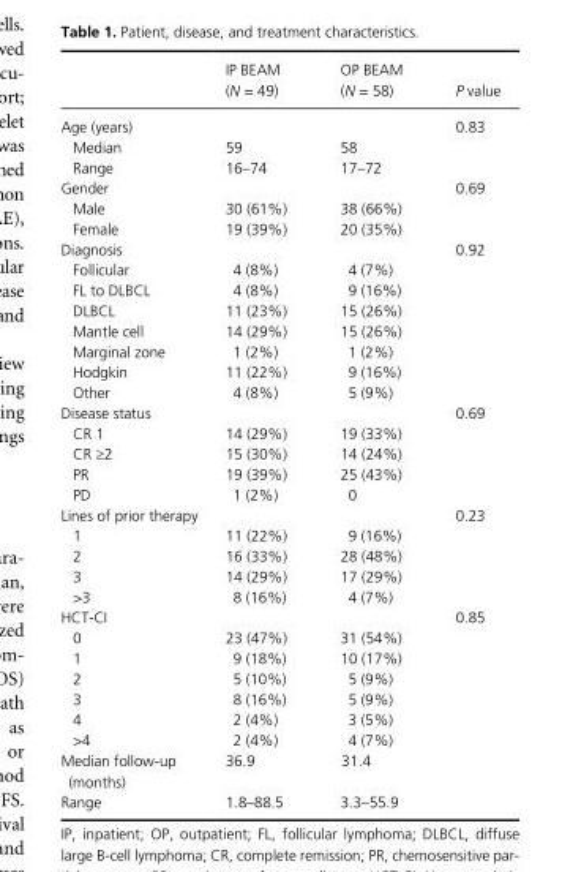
<table><thead><tr><td></td><td>IP BEAM (N = 49)</td><td>OP BEAM (N = 58)</td><td>P value</td></tr></thead><tbody><tr><td>Age (years)</td><td></td><td></td><td>0.83</td></tr><tr><td>Median</td><td>59</td><td>58</td><td></td></tr><tr><td>Range</td><td>16–74</td><td>17–72</td><td></td></tr><tr><td>Gender</td><td></td><td></td><td>0.69</td></tr><tr><td>Male</td><td>30 (61%)</td><td>38 (66%)</td><td></td></tr><tr><td>Female</td><td>19 (39%)</td><td>20 (35%)</td><td></td></tr><tr><td>Diagnosis</td><td></td><td></td><td>0.92</td></tr><tr><td>Follicular</td><td>4 (8%)</td><td>4 (7%)</td><td></td></tr><tr><td>FL to DLBCL</td><td>4 (8%)</td><td>9 (16%)</td><td></td></tr><tr><td>DLBCL</td><td>11 (23%)</td><td>15 (26%)</td><td></td></tr><tr><td>Mantle cell</td><td>14 (29%)</td><td>15 (26%)</td><td></td></tr><tr><td>Marginal zone</td><td>1 (2%)</td><td>1 (2%)</td><td></td></tr><tr><td>Hodgkin</td><td>11 (22%)</td><td>9 (16%)</td><td></td></tr><tr><td>Other</td><td>4 (8%)</td><td>5 (9%)</td><td></td></tr><tr><td>Disease status</td><td></td><td></td><td>0.69</td></tr><tr><td>CR 1</td><td>14 (29%)</td><td>19 (33%)</td><td></td></tr><tr><td>CR ≥2</td><td>15 (30%)</td><td>14 (24%)</td><td></td></tr><tr><td>PR</td><td>19 (39%)</td><td>25 (43%)</td><td></td></tr><tr><td>PD</td><td>1 (2%)</td><td>0</td><td></td></tr><tr><td>Lines of prior therapy</td><td></td><td></td><td>0.23</td></tr><tr><td>1</td><td>11 (22%)</td><td>9 (16%)</td><td></td></tr><tr><td>2</td><td>16 (33%)</td><td>28 (48%)</td><td></td></tr><tr><td>3</td><td>14 (29%)</td><td>17 (29%)</td><td></td></tr><tr><td>&gt;3</td><td>8 (16%)</td><td>4 (7%)</td><td></td></tr><tr><td>HCT- CI</td><td></td><td></td><td>0.85</td></tr><tr><td>0</td><td>23 (47%)</td><td>31 (54%)</td><td></td></tr><tr><td>1</td><td>9 (18%)</td><td>10 (17%)</td><td></td></tr><tr><td>2</td><td>5 (10%)</td><td>5 (9%)</td><td></td></tr><tr><td>3</td><td>8 (16%)</td><td>5 (9%)</td><td></td></tr><tr><td>4</td><td>2 (4%)</td><td>3 (5%)</td><td></td></tr><tr><td>&gt;4</td><td>2 (4%)</td><td>4 (7%)</td><td></td></tr><tr><td>Median follow- up (months)</td><td>36.9</td><td>31.4</td><td></td></tr><tr><td>Range</td><td>1.8–88.5</td><td>3.3–55.9</td><td></td></tr></tbody></table>